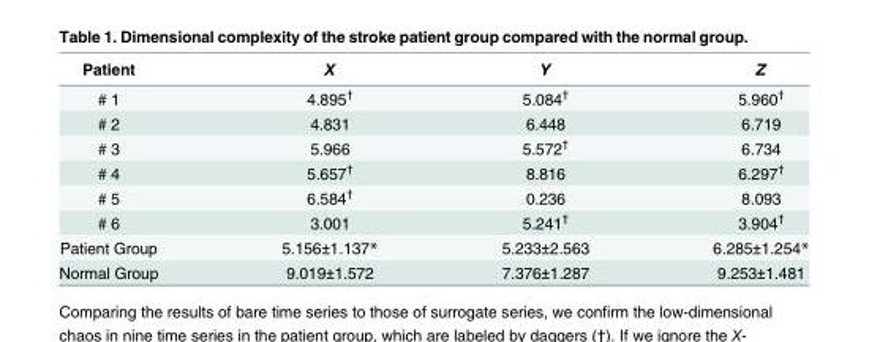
<table><thead><tr><td>Patient</td><td>X</td><td>Y</td><td>Z</td></tr></thead><tbody><tr><td># 1</td><td>4.895<sup>†</sup></td><td>5.084<sup>†</sup></td><td>5.960<sup>†</sup></td></tr><tr><td># 2</td><td>4.831</td><td>6.448</td><td>6.719</td></tr><tr><td># 3</td><td>5.966</td><td>5.572<sup>†</sup></td><td>6.734</td></tr><tr><td># 4</td><td>5.657<sup>†</sup></td><td>8.816</td><td>6.297<sup>†</sup></td></tr><tr><td># 5</td><td>6.584<sup>†</sup></td><td>0.236</td><td>8.093</td></tr><tr><td># 6</td><td>3.001</td><td>5.241<sup>†</sup></td><td>3.904<sup>†</sup></td></tr><tr><td>Patient Group</td><td>5.156±1.137*</td><td>5.233±2.563</td><td>6.285±1.254*</td></tr><tr><td>Normal Group</td><td>9.019±1.572</td><td>7.376±1.287</td><td>9.253±1.481</td></tr></tbody></table>